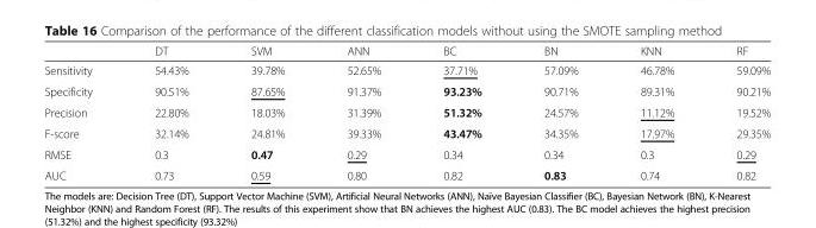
<table><thead><tr><td></td><td>DT</td><td>SVM</td><td>ANN</td><td>BC</td><td>BN</td><td>KNN</td><td>RF</td></tr></thead><tbody><tr><td>Sensitivity</td><td>54.43%</td><td>39.78%</td><td>52.65%</td><td>37.71%</td><td>57.09%</td><td>46.78%</td><td>59.09%</td></tr><tr><td>Specificity</td><td>90.51%</td><td>87.65%</td><td>91.37%</td><td>93.23%</td><td>90.71%</td><td>89.31%</td><td>90.21%</td></tr><tr><td>Precision</td><td>22.80%</td><td>18.03%</td><td>31.39%</td><td>51.32%</td><td>24.57%</td><td>11.12%</td><td>19.52%</td></tr><tr><td>F-score</td><td>32.14%</td><td>24.81%</td><td>39.33%</td><td>43.47%</td><td>34.35%</td><td>17.97%</td><td>29.35%</td></tr><tr><td>RMSE</td><td>0.3</td><td>0.47</td><td>0.29</td><td>0.34</td><td>0.34</td><td>0.3</td><td>0.29</td></tr><tr><td>AUC</td><td>0.73</td><td>0.59</td><td>0.80</td><td>0.82</td><td>0.83</td><td>0.74</td><td>0.82</td></tr></tbody></table>